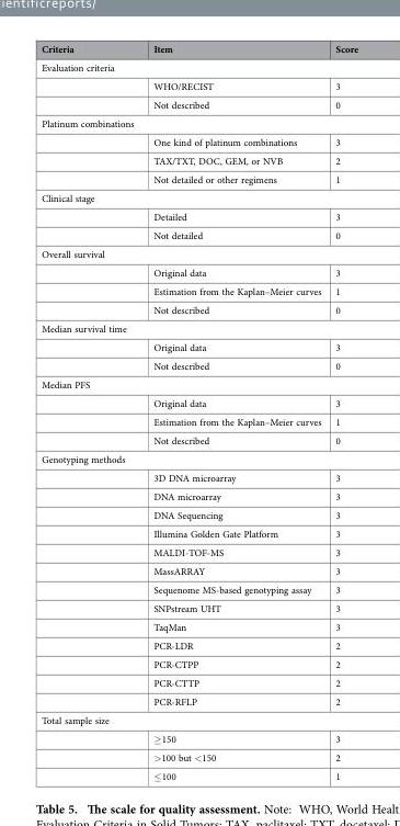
<table><thead><tr><td>Criteria</td><td>Item</td><td>Score</td></tr></thead><tbody><tr><td colspan="3">Evaluation criteria</td></tr><tr><td></td><td>WHO/RECIST</td><td>3</td></tr><tr><td></td><td>Not described</td><td>0</td></tr><tr><td colspan="3">Platinum combinations</td></tr><tr><td></td><td>One kind of platinum combinations</td><td>3</td></tr><tr><td></td><td>TAX/TXT, DOC, GEM, or NVB</td><td>2</td></tr><tr><td></td><td>Not detailed or other regimens</td><td>1</td></tr><tr><td colspan="3">Clinical stage</td></tr><tr><td></td><td>Detailed</td><td>3</td></tr><tr><td></td><td>Not detailed</td><td>0</td></tr><tr><td colspan="3">Overall survival</td></tr><tr><td></td><td>Original data</td><td>3</td></tr><tr><td></td><td>Estimation from the Kaplan–Meier curves</td><td>1</td></tr><tr><td></td><td>Not described</td><td>0</td></tr><tr><td colspan="3">Median survival time</td></tr><tr><td></td><td>Original data</td><td>3</td></tr><tr><td></td><td>Not described</td><td>0</td></tr><tr><td colspan="3">Median PFS</td></tr><tr><td></td><td>Original data</td><td>3</td></tr><tr><td></td><td>Estimation from the Kaplan–Meier curves</td><td>1</td></tr><tr><td></td><td>Not described</td><td>0</td></tr><tr><td colspan="3">Genotyping methods</td></tr><tr><td></td><td>3D DNA microarray</td><td>3</td></tr><tr><td></td><td>DNA microarray</td><td>3</td></tr><tr><td></td><td>DNA Sequencing</td><td>3</td></tr><tr><td></td><td>Illumina Golden Gate Platform</td><td>3</td></tr><tr><td></td><td>MALDI-TOF-MS</td><td>3</td></tr><tr><td></td><td>MassARRAY</td><td>3</td></tr><tr><td></td><td>Sequenome MS-based genotyping assay</td><td>3</td></tr><tr><td></td><td>SNPstream UHT</td><td>3</td></tr><tr><td></td><td>TaqMan</td><td>3</td></tr><tr><td></td><td>PCR-LDR</td><td>2</td></tr><tr><td></td><td>PCR-CTPP</td><td>2</td></tr><tr><td></td><td>PCR-CTTP</td><td>2</td></tr><tr><td></td><td>PCR-RFLP</td><td>2</td></tr><tr><td colspan="3">Total sample size</td></tr><tr><td></td><td>≥ 150</td><td>3</td></tr><tr><td></td><td>&gt;100 but &lt;150</td><td>2</td></tr><tr><td></td><td>≤ 100</td><td>1</td></tr></tbody></table>